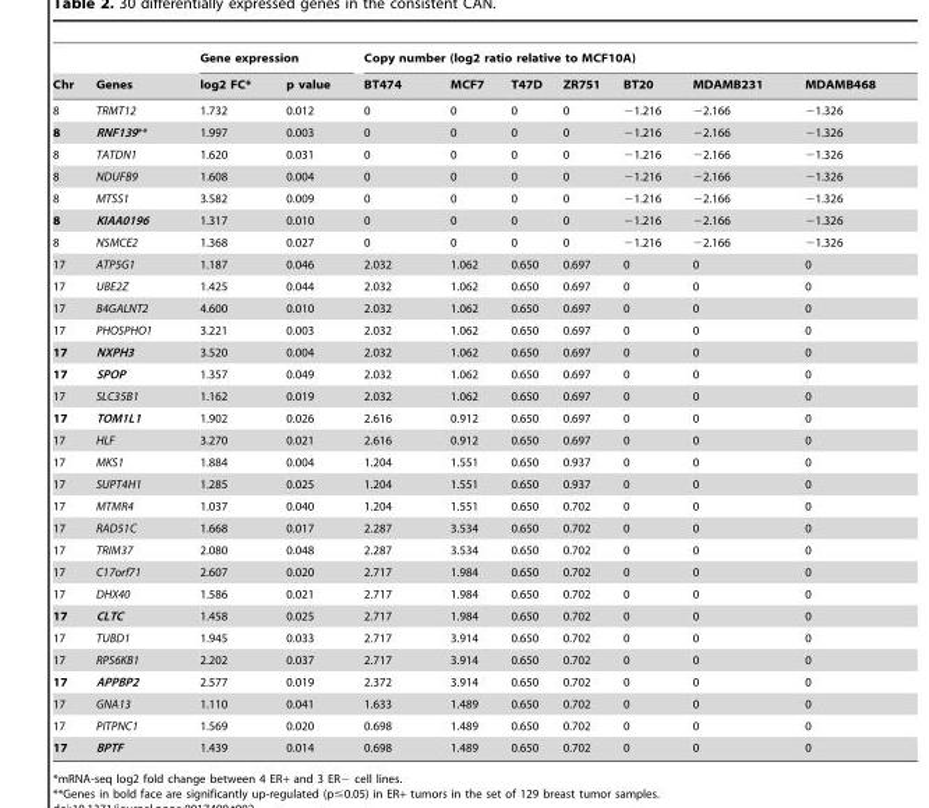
<table><thead><tr><td rowspan="2">Chr</td><td rowspan="2">Genes</td><td colspan="2">Gene expression</td><td colspan="7">Copy number (log2 ratio relative to MCF10A)</td></tr><tr><td>log2 FC*</td><td>p value</td><td>BT474</td><td>MCF7</td><td>T47D</td><td>ZR751</td><td>BT20</td><td>MDAMB231</td><td>MDAMB468</td></tr></thead><tbody><tr><td>8</td><td>TRMT12</td><td>1.732</td><td>0.012</td><td>0</td><td>0</td><td>0</td><td>0</td><td>−1.216</td><td>−2.166</td><td>−1.326</td></tr><tr><td>8</td><td>RNF139**</td><td>1.997</td><td>0.003</td><td>0</td><td>0</td><td>0</td><td>0</td><td>−1.216</td><td>−2.166</td><td>−1.326</td></tr><tr><td>8</td><td>TATDN1</td><td>1.620</td><td>0.031</td><td>0</td><td>0</td><td>0</td><td>0</td><td>−1.216</td><td>−2.166</td><td>−1.326</td></tr><tr><td>8</td><td>NDUFB9</td><td>1.608</td><td>0.004</td><td>0</td><td>0</td><td>0</td><td>0</td><td>−1.216</td><td>−2.166</td><td>−1.326</td></tr><tr><td>8</td><td>MTSS1</td><td>3.582</td><td>0.009</td><td>0</td><td>0</td><td>0</td><td>0</td><td>−1.216</td><td>−2.166</td><td>−1.326</td></tr><tr><td>8</td><td>KIAA0196</td><td>1.317</td><td>0.010</td><td>0</td><td>0</td><td>0</td><td>0</td><td>−1.216</td><td>−2.166</td><td>−1.326</td></tr><tr><td>8</td><td>NSMCE2</td><td>1.368</td><td>0.027</td><td>0</td><td>0</td><td>0</td><td>0</td><td>−1.216</td><td>−2.166</td><td>−1.326</td></tr><tr><td>17</td><td>ATP5G1</td><td>1.187</td><td>0.046</td><td>2.032</td><td>1.062</td><td>0.650</td><td>0.697</td><td>0</td><td>0</td><td>0</td></tr><tr><td>17</td><td>UBE2Z</td><td>1.425</td><td>0.044</td><td>2.032</td><td>1.062</td><td>0.650</td><td>0.697</td><td>0</td><td>0</td><td>0</td></tr><tr><td>17</td><td>B4GALNT2</td><td>4.600</td><td>0.010</td><td>2.032</td><td>1.062</td><td>0.650</td><td>0.697</td><td>0</td><td>0</td><td>0</td></tr><tr><td>17</td><td>PHOSPHO1</td><td>3.221</td><td>0.003</td><td>2.032</td><td>1.062</td><td>0.650</td><td>0.697</td><td>0</td><td>0</td><td>0</td></tr><tr><td>17</td><td>NXPH3</td><td>3.520</td><td>0.004</td><td>2.032</td><td>1.062</td><td>0.650</td><td>0.697</td><td>0</td><td>0</td><td>0</td></tr><tr><td>17</td><td>SPOP</td><td>1.357</td><td>0.049</td><td>2.032</td><td>1.062</td><td>0.650</td><td>0.697</td><td>0</td><td>0</td><td>0</td></tr><tr><td>17</td><td>SLC35B1</td><td>1.162</td><td>0.019</td><td>2.032</td><td>1.062</td><td>0.650</td><td>0.697</td><td>0</td><td>0</td><td>0</td></tr><tr><td>17</td><td>TOM1L1</td><td>1.902</td><td>0.026</td><td>2.616</td><td>0.912</td><td>0.650</td><td>0.697</td><td>0</td><td>0</td><td>0</td></tr><tr><td>17</td><td>HLF</td><td>3.270</td><td>0.021</td><td>2.616</td><td>0.912</td><td>0.650</td><td>0.697</td><td>0</td><td>0</td><td>0</td></tr><tr><td>17</td><td>MKS1</td><td>1.884</td><td>0.004</td><td>1.204</td><td>1.551</td><td>0.650</td><td>0.937</td><td>0</td><td>0</td><td>0</td></tr><tr><td>17</td><td>SUPT4H1</td><td>1.285</td><td>0.025</td><td>1.204</td><td>1.551</td><td>0.650</td><td>0.937</td><td>0</td><td>0</td><td>0</td></tr><tr><td>17</td><td>MTMR4</td><td>1.037</td><td>0.040</td><td>1.204</td><td>1.551</td><td>0.650</td><td>0.702</td><td>0</td><td>0</td><td>0</td></tr><tr><td>17</td><td>RAD51C</td><td>1.668</td><td>0.017</td><td>2.287</td><td>3.534</td><td>0.650</td><td>0.702</td><td>0</td><td>0</td><td>0</td></tr><tr><td>17</td><td>TRIM37</td><td>2.080</td><td>0.048</td><td>2.287</td><td>3.534</td><td>0.650</td><td>0.702</td><td>0</td><td>0</td><td>0</td></tr><tr><td>17</td><td>C17orf71</td><td>2.607</td><td>0.020</td><td>2.717</td><td>1.984</td><td>0.650</td><td>0.702</td><td>0</td><td>0</td><td>0</td></tr><tr><td>17</td><td>DHX40</td><td>1.586</td><td>0.021</td><td>2.717</td><td>1.984</td><td>0.650</td><td>0.702</td><td>0</td><td>0</td><td>0</td></tr><tr><td>17</td><td>CLTC</td><td>1.458</td><td>0.025</td><td>2.717</td><td>1.984</td><td>0.650</td><td>0.702</td><td>0</td><td>0</td><td>0</td></tr><tr><td>17</td><td>TUBD1</td><td>1.945</td><td>0.033</td><td>2.717</td><td>3.914</td><td>0.650</td><td>0.702</td><td>0</td><td>0</td><td>0</td></tr><tr><td>17</td><td>RPS6KB1</td><td>2.202</td><td>0.037</td><td>2.717</td><td>3.914</td><td>0.650</td><td>0.702</td><td>0</td><td>0</td><td>0</td></tr><tr><td>17</td><td>APPBP2</td><td>2.577</td><td>0.019</td><td>2.372</td><td>3.914</td><td>0.650</td><td>0.702</td><td>0</td><td>0</td><td>0</td></tr><tr><td>17</td><td>GNA13</td><td>1.110</td><td>0.041</td><td>1.633</td><td>1.489</td><td>0.650</td><td>0.702</td><td>0</td><td>0</td><td>0</td></tr><tr><td>17</td><td>PITPNC1</td><td>1.569</td><td>0.020</td><td>0.698</td><td>1.489</td><td>0.650</td><td>0.702</td><td>0</td><td>0</td><td>0</td></tr><tr><td>17</td><td>BPTF</td><td>1.439</td><td>0.014</td><td>0.698</td><td>1.489</td><td>0.650</td><td>0.702</td><td>0</td><td>0</td><td>0</td></tr></tbody></table>